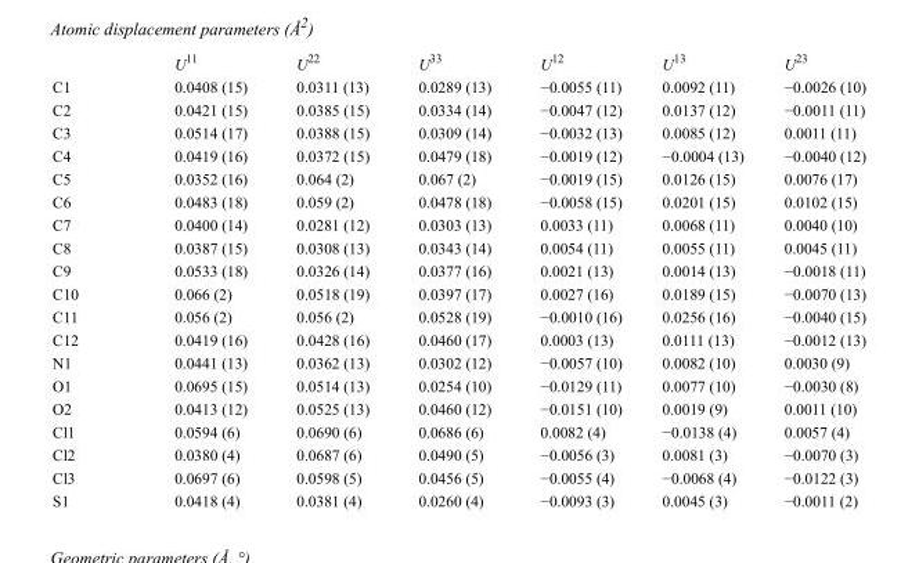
<table><thead><tr><td></td><td>U<sup>11</sup></td><td>U<sup>22</sup></td><td>U<sup>33</sup></td><td>U<sup>12</sup></td><td>U<sup>13</sup></td><td>U<sup>23</sup></td></tr></thead><tbody><tr><td>C1</td><td>0.0408 (15)</td><td>0.0311 (13)</td><td>0.0289 (13)</td><td>−0.0055 (11)</td><td>0.0092 (11)</td><td>−0.0026 (10)</td></tr><tr><td>C2</td><td>0.0421 (15)</td><td>0.0385 (15)</td><td>0.0334 (14)</td><td>−0.0047 (12)</td><td>0.0137 (12)</td><td>−0.0011 (11)</td></tr><tr><td>C3</td><td>0.0514 (17)</td><td>0.0388 (15)</td><td>0.0309 (14)</td><td>−0.0032 (13)</td><td>0.0085 (12)</td><td>0.0011 (11)</td></tr><tr><td>C4</td><td>0.0419 (16)</td><td>0.0372 (15)</td><td>0.0479 (18)</td><td>−0.0019 (12)</td><td>−0.0004 (13)</td><td>−0.0040 (12)</td></tr><tr><td>C5</td><td>0.0352 (16)</td><td>0.064 (2)</td><td>0.067 (2)</td><td>−0.0019 (15)</td><td>0.0126 (15)</td><td>0.0076 (17)</td></tr><tr><td>C6</td><td>0.0483 (18)</td><td>0.059 (2)</td><td>0.0478 (18)</td><td>−0.0058 (15)</td><td>0.0201 (15)</td><td>0.0102 (15)</td></tr><tr><td>C7</td><td>0.0400 (14)</td><td>0.0281 (12)</td><td>0.0303 (13)</td><td>0.0033 (11)</td><td>0.0068 (11)</td><td>0.0040 (10)</td></tr><tr><td>C8</td><td>0.0387 (15)</td><td>0.0308 (13)</td><td>0.0343 (14)</td><td>0.0054 (11)</td><td>0.0055 (11)</td><td>0.0045 (11)</td></tr><tr><td>C9</td><td>0.0533 (18)</td><td>0.0326 (14)</td><td>0.0377 (16)</td><td>0.0021 (13)</td><td>0.0014 (13)</td><td>−0.0018 (11)</td></tr><tr><td>C10</td><td>0.066 (2)</td><td>0.0518 (19)</td><td>0.0397 (17)</td><td>0.0027 (16)</td><td>0.0189 (15)</td><td>−0.0070 (13)</td></tr><tr><td>C11</td><td>0.056 (2)</td><td>0.056 (2)</td><td>0.0528 (19)</td><td>−0.0010 (16)</td><td>0.0256 (16)</td><td>−0.0040 (15)</td></tr><tr><td>C12</td><td>0.0419 (16)</td><td>0.0428 (16)</td><td>0.0460 (17)</td><td>0.0003 (13)</td><td>0.0111 (13)</td><td>−0.0012 (13)</td></tr><tr><td>N1</td><td>0.0441 (13)</td><td>0.0362 (13)</td><td>0.0302 (12)</td><td>−0.0057 (10)</td><td>0.0082 (10)</td><td>0.0030 (9)</td></tr><tr><td>O1</td><td>0.0695 (15)</td><td>0.0514 (13)</td><td>0.0254 (10)</td><td>−0.0129 (11)</td><td>0.0077 (10)</td><td>−0.0030 (8)</td></tr><tr><td>O2</td><td>0.0413 (12)</td><td>0.0525 (13)</td><td>0.0460 (12)</td><td>−0.0151 (10)</td><td>0.0019 (9)</td><td>0.0011 (10)</td></tr><tr><td>Cl1</td><td>0.0594 (6)</td><td>0.0690 (6)</td><td>0.0686 (6)</td><td>0.0082 (4)</td><td>−0.0138 (4)</td><td>0.0057 (4)</td></tr><tr><td>Cl2</td><td>0.0380 (4)</td><td>0.0687 (6)</td><td>0.0490 (5)</td><td>−0.0056 (3)</td><td>0.0081 (3)</td><td>−0.0070 (3)</td></tr><tr><td>Cl3</td><td>0.0697 (6)</td><td>0.0598 (5)</td><td>0.0456 (5)</td><td>−0.0055 (4)</td><td>−0.0068 (4)</td><td>−0.0122 (3)</td></tr><tr><td>S1</td><td>0.0418 (4)</td><td>0.0381 (4)</td><td>0.0260 (4)</td><td>−0.0093 (3)</td><td>0.0045 (3)</td><td>−0.0011 (2)</td></tr></tbody></table>